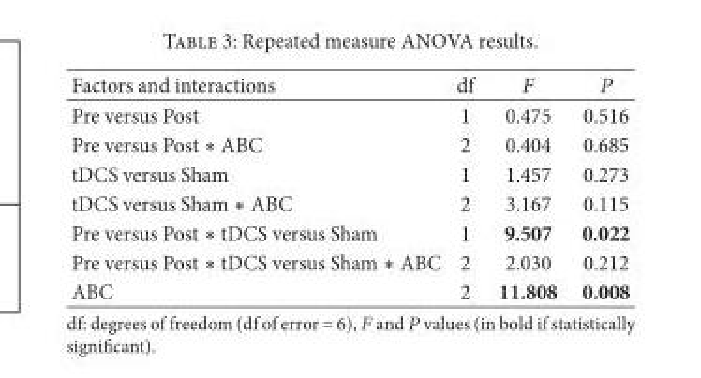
<table><thead><tr><td>Factors and interactions</td><td>df</td><td>𝐹𝐹</td><td>𝑃𝑃</td></tr></thead><tbody><tr><td>Pre versus Post</td><td>1</td><td>0.475</td><td>0.516</td></tr><tr><td>Pre versus Post ∗ ABC</td><td>2</td><td>0.404</td><td>0.685</td></tr><tr><td>tDCS versus Sham</td><td>1</td><td>1.457</td><td>0.273</td></tr><tr><td>tDCS versus Sham ∗ ABC</td><td>2</td><td>3.167</td><td>0.115</td></tr><tr><td>Pre versus Post ∗ tDCS versus Sham</td><td>1</td><td>9.507</td><td>0.022</td></tr><tr><td>Pre versus Post ∗ tDCS versus Sham ∗ ABC</td><td>2</td><td>2.030</td><td>0.212</td></tr><tr><td>ABC</td><td>2</td><td>11.808</td><td>0.008</td></tr></tbody></table>